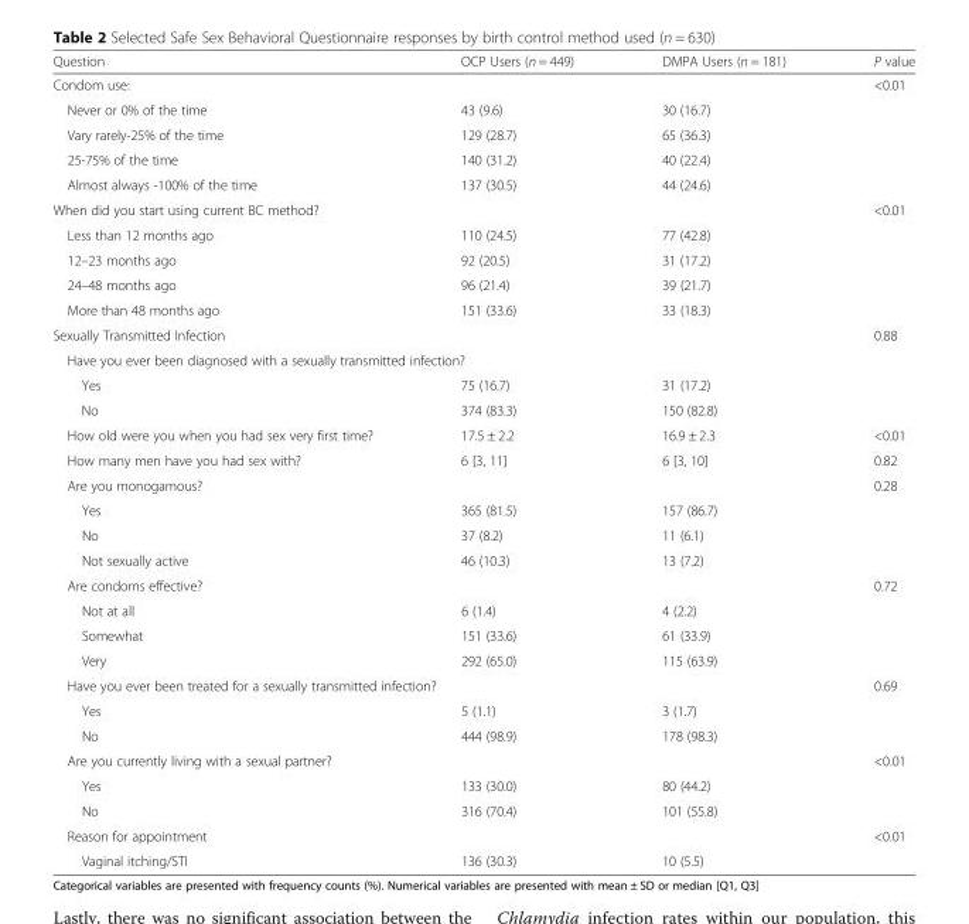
<table><thead><tr><td>Question</td><td>OCP Users (n = 449)</td><td>DMPA Users (n = 181)</td><td>P value</td></tr></thead><tbody><tr><td colspan="3">Condom use:</td><td rowspan="5">&lt;0.01</td></tr><tr><td>Never or 0% of the time</td><td>43 (9.6)</td><td>30 (16.7)</td></tr><tr><td>Vary rarely-25% of the time</td><td>129 (28.7)</td><td>65 (36.3)</td></tr><tr><td>25-75% of the time</td><td>140 (31.2)</td><td>40 (22.4)</td></tr><tr><td>Almost always -100% of the time</td><td>137 (30.5)</td><td>44 (24.6)</td></tr><tr><td colspan="3">When did you start using current BC method?</td><td rowspan="5">&lt;0.01</td></tr><tr><td>Less than 12 months ago</td><td>110 (24.5)</td><td>77 (42.8)</td></tr><tr><td>12–23 months ago</td><td>92 (20.5)</td><td>31 (17.2)</td></tr><tr><td>24–48 months ago</td><td>96 (21.4)</td><td>39 (21.7)</td></tr><tr><td>More than 48 months ago</td><td>151 (33.6)</td><td>33 (18.3)</td></tr><tr><td colspan="3">Sexually Transmitted Infection</td><td rowspan="4">0.88</td></tr><tr><td colspan="3">Have you ever been diagnosed with a sexually transmitted infection?</td></tr><tr><td>Yes</td><td>75 (16.7)</td><td>31 (17.2)</td></tr><tr><td>No</td><td>374 (83.3)</td><td>150 (82.8)</td></tr><tr><td>How old were you when you had sex very first time?</td><td>17.5 ± 2.2</td><td>16.9 ± 2.3</td><td>&lt;0.01</td></tr><tr><td>How many men have you had sex with?</td><td>6 [3, 11]</td><td>6 [3, 10]</td><td>0.82</td></tr><tr><td colspan="3">Are you monogamous?</td><td rowspan="4">0.28</td></tr><tr><td>Yes</td><td>365 (81.5)</td><td>157 (86.7)</td></tr><tr><td>No</td><td>37 (8.2)</td><td>11 (6.1)</td></tr><tr><td>Not sexually active</td><td>46 (10.3)</td><td>13 (7.2)</td></tr><tr><td colspan="3">Are condoms effective?</td><td rowspan="4">0.72</td></tr><tr><td>Not at all</td><td>6 (1.4)</td><td>4 (2.2)</td></tr><tr><td>Somewhat</td><td>151 (33.6)</td><td>61 (33.9)</td></tr><tr><td>Very</td><td>292 (65.0)</td><td>115 (63.9)</td></tr><tr><td colspan="3">Have you ever been treated for a sexually transmitted infection?</td><td rowspan="3">0.69</td></tr><tr><td>Yes</td><td>5 (1.1)</td><td>3 (1.7)</td></tr><tr><td>No</td><td>444 (98.9)</td><td>178 (98.3)</td></tr><tr><td colspan="3">Are you currently living with a sexual partner?</td><td rowspan="3">&lt;0.01</td></tr><tr><td>Yes</td><td>133 (30.0)</td><td>80 (44.2)</td></tr><tr><td>No</td><td>316 (70.4)</td><td>101 (55.8)</td></tr><tr><td colspan="3">Reason for appointment</td><td rowspan="2">&lt;0.01</td></tr><tr><td>Vaginal itching/STI</td><td>136 (30.3)</td><td>10 (5.5)</td></tr></tbody></table>